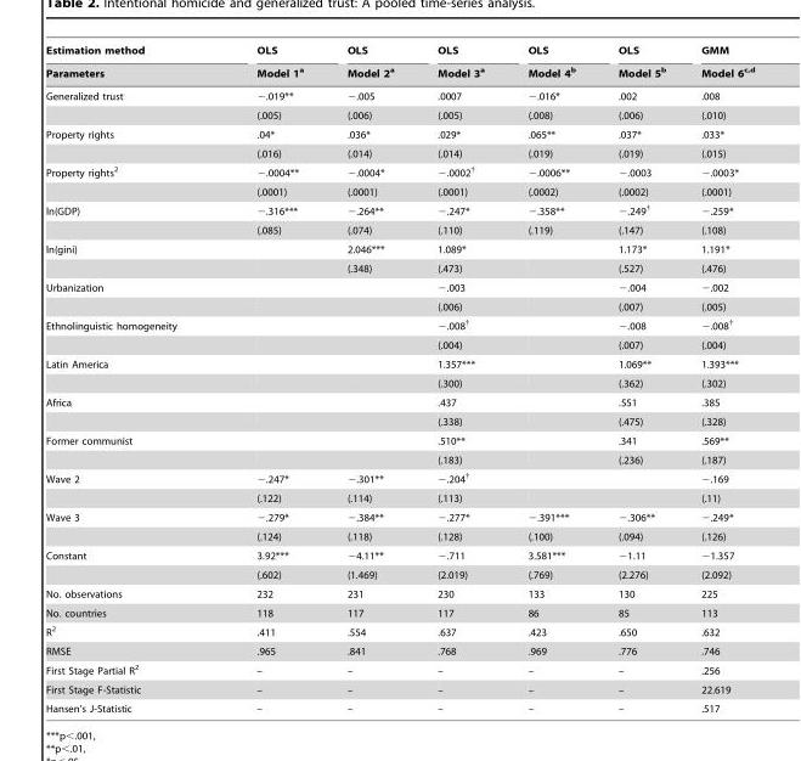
<table><thead><tr><td rowspan="2">Estimation method Parameters</td><td rowspan="2">OLS Model 1<sup>a</sup></td><td rowspan="2">OLS Model 2<sup>a</sup></td><td rowspan="2">OLS Model 3<sup>a</sup></td><td rowspan="2">OLS Model 4<sup>b</sup></td><td rowspan="2">OLS Model 5<sup>b</sup></td><td rowspan="2">GMM Model 6c,d</td></tr><tr></tr></thead><tbody><tr><td rowspan="2">Generalized trust</td><td>−.019**</td><td>−.005</td><td>.0007</td><td>−.016*</td><td>.002</td><td>.008</td></tr><tr><td>(.005)</td><td>(.006)</td><td>(.005)</td><td>(.008)</td><td>(.006)</td><td>(.010)</td></tr><tr><td rowspan="2">Property rights</td><td>.04*</td><td>.036*</td><td>.029*</td><td>.065**</td><td>.037*</td><td>.033*</td></tr><tr><td>(.016)</td><td>(.014)</td><td>(.014)</td><td>(.019)</td><td>(.019)</td><td>(.015)</td></tr><tr><td rowspan="2">Property rights<sup>2</sup></td><td>−.0004**</td><td>−.0004*</td><td>−.0002†</td><td>−.0006**</td><td>−.0003</td><td>−.0003*</td></tr><tr><td>(.0001)</td><td>(.0001)</td><td>(.0001)</td><td>(.0002)</td><td>(.0002)</td><td>(.0001)</td></tr><tr><td rowspan="2">ln(GDP)</td><td>−.316***</td><td>−.264**</td><td>−.247*</td><td>−.358**</td><td>−.249†</td><td>−.259*</td></tr><tr><td>(.085)</td><td>(.074)</td><td>(.110)</td><td>(.119)</td><td>(.147)</td><td>(.108)</td></tr><tr><td rowspan="2">ln(gini)</td><td></td><td>2.046***</td><td>1.089*</td><td></td><td>1.173*</td><td>1.191*</td></tr><tr><td></td><td>(.348)</td><td>(.473)</td><td></td><td>(.527)</td><td>(.476)</td></tr><tr><td rowspan="2">Urbanization</td><td></td><td></td><td>−.003</td><td></td><td>−.004</td><td>−.002</td></tr><tr><td></td><td></td><td>(.006)</td><td></td><td>(.007)</td><td>(.005)</td></tr><tr><td rowspan="2">Ethnolinguistic homogeneity</td><td></td><td></td><td>−.008†</td><td></td><td>−.008</td><td>−.008†</td></tr><tr><td></td><td></td><td>(.004)</td><td></td><td>(.007)</td><td>(.004)</td></tr><tr><td rowspan="2">Latin America</td><td></td><td></td><td>1.357***</td><td></td><td>1.069**</td><td>1.393***</td></tr><tr><td></td><td></td><td>(.300)</td><td></td><td>(.362)</td><td>(.302)</td></tr><tr><td rowspan="2">Africa</td><td></td><td></td><td>.437</td><td></td><td>.551</td><td>.385</td></tr><tr><td></td><td></td><td>(.338)</td><td></td><td>(.475)</td><td>(.328)</td></tr><tr><td rowspan="2">Former communist</td><td></td><td></td><td>.510**</td><td></td><td>.341</td><td>.569**</td></tr><tr><td></td><td></td><td>(.183)</td><td></td><td>(.236)</td><td>(.187)</td></tr><tr><td rowspan="2">Wave 2</td><td>−.247*</td><td>−.301**</td><td>−.204†</td><td></td><td></td><td>−.169</td></tr><tr><td>(.122)</td><td>(.114)</td><td>(.113)</td><td></td><td></td><td>(.11)</td></tr><tr><td rowspan="2">Wave 3</td><td>−.279*</td><td>−.384**</td><td>−.277*</td><td>−.391***</td><td>−.306**</td><td>−.249*</td></tr><tr><td>(.124)</td><td>(.118)</td><td>(.128)</td><td>(.100)</td><td>(.094)</td><td>(.126)</td></tr><tr><td rowspan="2">Constant</td><td>3.92***</td><td>−4.11**</td><td>−.711</td><td>3.581***</td><td>−1.11</td><td>−1.357</td></tr><tr><td>(.602)</td><td>(1.469)</td><td>(2.019)</td><td>(.769)</td><td>(2.276)</td><td>(2.092)</td></tr><tr><td>No. observations</td><td>232</td><td>231</td><td>230</td><td>133</td><td>130</td><td>225</td></tr><tr><td>No. countries</td><td>118</td><td>117</td><td>117</td><td>86</td><td>85</td><td>113</td></tr><tr><td>R<sup>2</sup></td><td>.411</td><td>.554</td><td>.637</td><td>.423</td><td>.650</td><td>.632</td></tr><tr><td>RMSE</td><td>.965</td><td>.841</td><td>.768</td><td>.969</td><td>.776</td><td>.746</td></tr><tr><td>First Stage Partial R<sup>2</sup></td><td>–</td><td>–</td><td>–</td><td>–</td><td>–</td><td>.256</td></tr><tr><td>First Stage F-Statistic</td><td>–</td><td>–</td><td>–</td><td>–</td><td>–</td><td>22.619</td></tr><tr><td>Hansen’s J-Statistic</td><td>–</td><td>–</td><td>–</td><td>–</td><td>–</td><td>.517</td></tr></tbody></table>